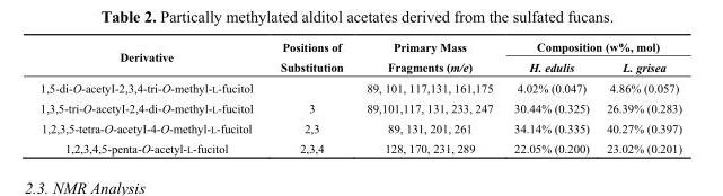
<table><thead><tr><td rowspan="2">Derivative</td><td rowspan="2">Positions of Substitution</td><td rowspan="2">Primary Mass Fragments (m/e)</td><td colspan="2">Composition (w%, mol)</td></tr><tr><td>H. edulis</td><td>L. grisea</td></tr></thead><tbody><tr><td>1,5-di-O-acetyI-2,3,4-tri-O-methyl-L-fucitol</td><td></td><td>89, 101, 117,131, 161,175</td><td>4.02% (0.047)</td><td>4.86% (0.057)</td></tr><tr><td>1,3,5-tri-O-acetyI-2,4-di-O-methyl-L-fucitol</td><td>3</td><td>89,101,117, 131, 233, 247</td><td>30.44% (0.325)</td><td>26.39% (0.283)</td></tr><tr><td>1,2,3,5-tetra-O-acetyI-4-O-methyl-L-fucitol</td><td>2,3</td><td>89, 131, 201, 261</td><td>34.14% (0.335)</td><td>40.27% (0.397)</td></tr><tr><td>1,2,3,4,5-penta-O-acetyl-L-fucitol</td><td>2,3,4</td><td>128, 170, 231, 289</td><td>22.05% (0.200)</td><td>23.02% (0.201)</td></tr></tbody></table>